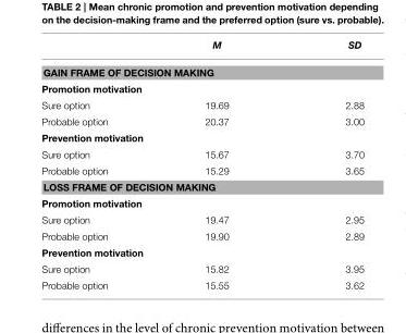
<table><thead><tr><td></td><td>M</td><td>SD</td></tr></thead><tbody><tr><td colspan="3">GAIN FRAME OF DECISION MAKING</td></tr><tr><td colspan="3">Promotion motivation</td></tr><tr><td>Sure option</td><td>19.69</td><td>2.88</td></tr><tr><td>Probable option</td><td>20.37</td><td>3.00</td></tr><tr><td colspan="3">Prevention motivation</td></tr><tr><td>Sure option</td><td>15.67</td><td>3.70</td></tr><tr><td>Probable option</td><td>15.29</td><td>3.65</td></tr><tr><td colspan="3">LOSS FRAME OF DECISION MAKING</td></tr><tr><td colspan="3">Promotion motivation</td></tr><tr><td>Sure option</td><td>19.47</td><td>2.95</td></tr><tr><td>Probable option</td><td>19.90</td><td>2.89</td></tr><tr><td colspan="3">Prevention motivation</td></tr><tr><td>Sure option</td><td>15.82</td><td>3.95</td></tr><tr><td>Probable option</td><td>15.55</td><td>3.62</td></tr></tbody></table>